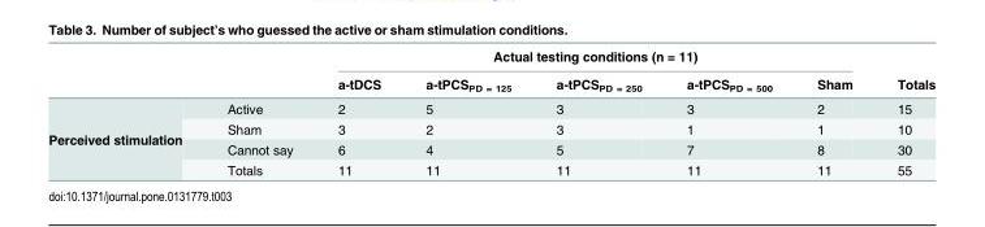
<table><thead><tr><td rowspan="2"></td><td rowspan="2"></td><td colspan="5">Actual testing conditions (n = 11)</td><td rowspan="2">Totals</td></tr><tr><td>a-tDCS</td><td>a-tPCS<sub>PD = 125</sub></td><td>a-tPCS<sub>PD = 250</sub></td><td>a-tPCS<sub>PD = 500</sub></td><td>Sham</td></tr></thead><tbody><tr><td rowspan="4">Perceived stimulation</td><td>Active</td><td>2</td><td>5</td><td>3</td><td>3</td><td>2</td><td>15</td></tr><tr><td>Sham</td><td>3</td><td>2</td><td>3</td><td>1</td><td>1</td><td>10</td></tr><tr><td>Cannot say</td><td>6</td><td>4</td><td>5</td><td>7</td><td>8</td><td>30</td></tr><tr><td>Totals</td><td>11</td><td>11</td><td>11</td><td>11</td><td>11</td><td>55</td></tr></tbody></table>